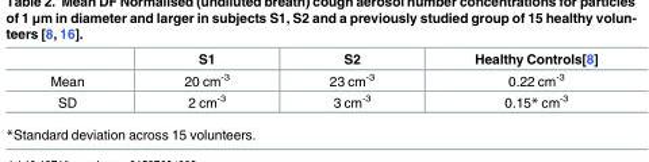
<table><thead><tr><td></td><td>S1</td><td>S2</td><td>Healthy Controls[8]</td></tr></thead><tbody><tr><td>Mean</td><td>20 cm<sup>-3</sup></td><td>23 cm<sup>-3</sup></td><td>0.22 cm<sup>-3</sup></td></tr><tr><td>SD</td><td>2 cm<sup>-3</sup></td><td>3 cm<sup>-3</sup></td><td>0.15* cm<sup>-3</sup></td></tr></tbody></table>